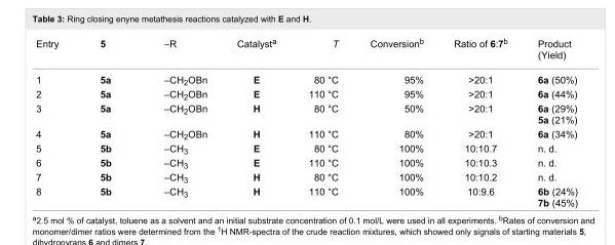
<table><tbody><tr><td>Entry</td><td>5</td><td>–R</td><td>Catalyst<sup>a</sup></td><td>T</td><td>Conversion<sup>b</sup></td><td>Ratio of 6:7<sup>b</sup></td><td>Product (Yield)</td></tr><tr><td>1</td><td>5a</td><td>–CH<sub>2</sub>OBn</td><td>E</td><td>80 °C</td><td>95%</td><td>&gt;20:1</td><td>6a (50%)</td></tr><tr><td>2</td><td>5a</td><td>–CH<sub>2</sub>OBn</td><td>E</td><td>110 °C</td><td>95%</td><td>&gt;20:1</td><td>6a (44%)</td></tr><tr><td>3</td><td>5a</td><td>–CH<sub>2</sub>OBn</td><td>H</td><td>80 °C</td><td>50%</td><td>&gt;20:1</td><td>6a (29%) 5a (21%)</td></tr><tr><td>4</td><td>5a</td><td>–CH<sub>2</sub>OBn</td><td>H</td><td>110 °C</td><td>80%</td><td>&gt;20:1</td><td>6a (34%)</td></tr><tr><td>5</td><td>5b</td><td>–CH<sub>3</sub></td><td>E</td><td>80 °C</td><td>100%</td><td>10:10.7</td><td>n. d.</td></tr><tr><td>6</td><td>5b</td><td>–CH<sub>3</sub></td><td>E</td><td>110 °C</td><td>100%</td><td>10:10.3</td><td>n. d.</td></tr><tr><td>7</td><td>5b</td><td>–CH<sub>3</sub></td><td>H</td><td>80 °C</td><td>100%</td><td>10:10.2</td><td>n. d.</td></tr><tr><td>8</td><td>5b</td><td>–CH<sub>3</sub></td><td>H</td><td>110 °C</td><td>100%</td><td>10:9.6</td><td>6b (24%) 7b (45%)</td></tr></tbody></table>